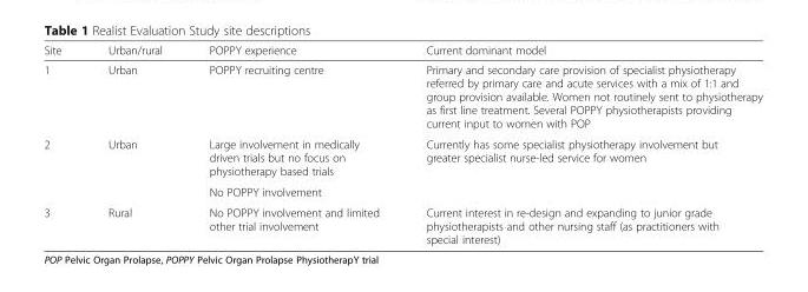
<table><thead><tr><td>Site</td><td>Urban/rural</td><td>POPPY experience</td><td>Current dominant model</td></tr></thead><tbody><tr><td>1</td><td>Urban</td><td>POPPY recruiting centre</td><td>Primary and secondary care provision of specialist physiotherapy referred by primary care and acute services with a mix of 1:1 and group provision available. Women not routinely sent to physiotherapy as first line treatment. Several POPPY physiotherapists providing current input to women with POP</td></tr><tr><td rowspan="2">2</td><td rowspan="2">Urban</td><td>Large involvement in medically driven trials but no focus on physiotherapy based trials</td><td rowspan="2">Currently has some specialist physiotherapy involvement but greater specialist nurse-led service for women</td></tr><tr><td>No POPPY involvement</td></tr><tr><td>3</td><td>Rural</td><td>No POPPY involvement and limited other trial involvement</td><td>Current interest in re-design and expanding to junior grade physiotherapists and other nursing staff (as practitioners with special interest)</td></tr></tbody></table>